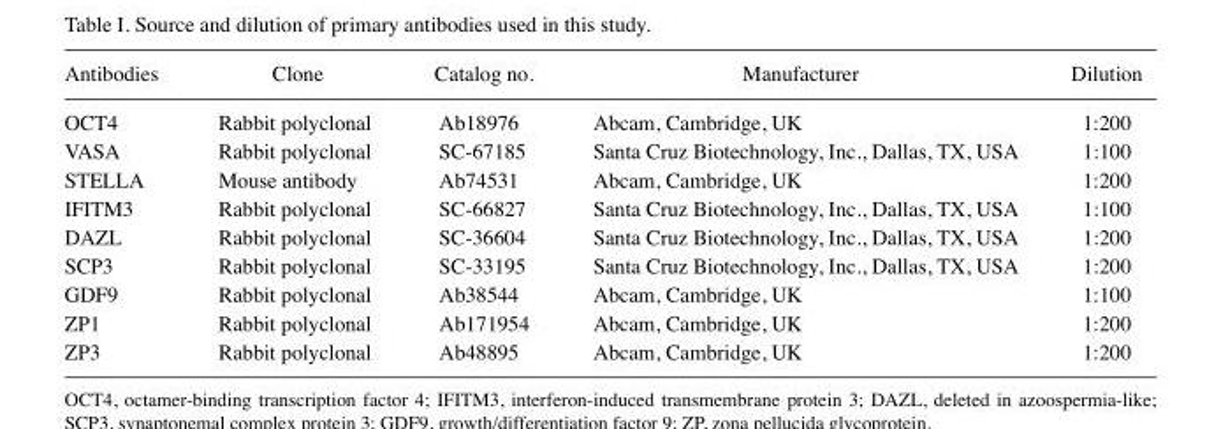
<table><thead><tr><td>Antibodies</td><td>Clone</td><td>Catalog no.</td><td>Manufacturer</td><td>Dilution</td></tr></thead><tbody><tr><td>OCT4</td><td>Rabbit polyclonal</td><td>Ab18976</td><td>Abcam, Cambridge, UK</td><td>1:200</td></tr><tr><td>VASA</td><td>Rabbit polyclonal</td><td>SC-67185</td><td>Santa Cruz Biotechnology, Inc., Dallas, TX, USA</td><td>1:100</td></tr><tr><td>STELLA</td><td>Mouse antibody</td><td>Ab74531</td><td>Abcam, Cambridge, UK</td><td>1:200</td></tr><tr><td>IFITM3</td><td>Rabbit polyclonal</td><td>SC-66827</td><td>Santa Cruz Biotechnology, Inc., Dallas, TX, USA</td><td>1:100</td></tr><tr><td>DAZL</td><td>Rabbit polyclonal</td><td>SC-36604</td><td>Santa Cruz Biotechnology, Inc., Dallas, TX, USA</td><td>1:200</td></tr><tr><td>SCP3</td><td>Rabbit polyclonal</td><td>SC-33195</td><td>Santa Cruz Biotechnology, Inc., Dallas, TX, USA</td><td>1:200</td></tr><tr><td>GDF9</td><td>Rabbit polyclonal</td><td>Ab38544</td><td>Abcam, Cambridge, UK</td><td>1:100</td></tr><tr><td>ZP1</td><td>Rabbit polyclonal</td><td>Ab171954</td><td>Abcam, Cambridge, UK</td><td>1:200</td></tr><tr><td>ZP3</td><td>Rabbit polyclonal</td><td>Ab48895</td><td>Abcam, Cambridge, UK</td><td>1:200</td></tr></tbody></table>